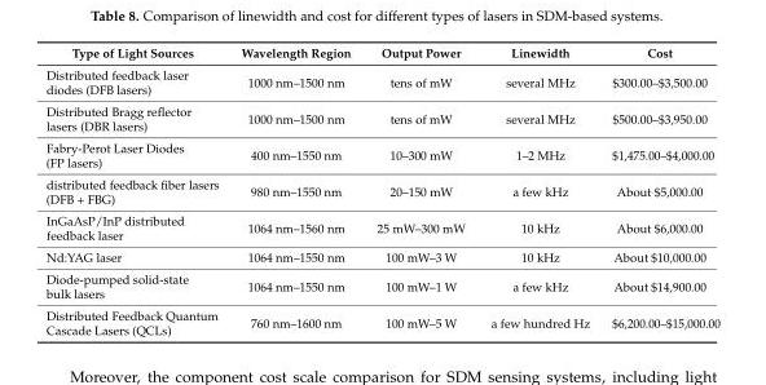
<table><thead><tr><td>Type of Light Sources</td><td>Wavelength Region</td><td>Output Power</td><td>Linewidth</td><td>Cost</td></tr></thead><tbody><tr><td>Distributed feedback laser diodes (DFB lasers)</td><td>1000 nm–1500 nm</td><td>tens of mW</td><td>several MHz</td><td>$300.00–$3,500.00</td></tr><tr><td>Distributed Bragg reflector lasers (DBR lasers)</td><td>1000 nm–1500 nm</td><td>tens of mW</td><td>several MHz</td><td>$500.00–$3,950.00</td></tr><tr><td>Fabry-Perot Laser Diodes (FP lasers)</td><td>400 nm–1550 nm</td><td>10–300 mW</td><td>1–2 MHz</td><td>$1,475.00–$4,000.00</td></tr><tr><td>distributed feedback fiber lasers (DFB + FBG)</td><td>980 nm–1550 nm</td><td>20–150 mW</td><td>a few kHz</td><td>About $5,000.00</td></tr><tr><td>InGaAsP/InP distributed feedback laser</td><td>1064 nm–1560 nm</td><td>25 mW–300 mW</td><td>10 kHz</td><td>About $6,000.00</td></tr><tr><td>Nd:YAG laser</td><td>1064 nm–1550 nm</td><td>100 mW–3 W</td><td>10 kHz</td><td>About $10,000.00</td></tr><tr><td>Diode-pumped solid-state bulk lasers</td><td>1064 nm–1550 nm</td><td>100 mW–1 W</td><td>a few kHz</td><td>About $14,900.00</td></tr><tr><td>Distributed Feedback Quantum Cascade Lasers (QCLs)</td><td>760 nm–1600 nm</td><td>100 mW–5 W</td><td>a few hundred Hz</td><td>$6,200.00–$15,000.00</td></tr></tbody></table>